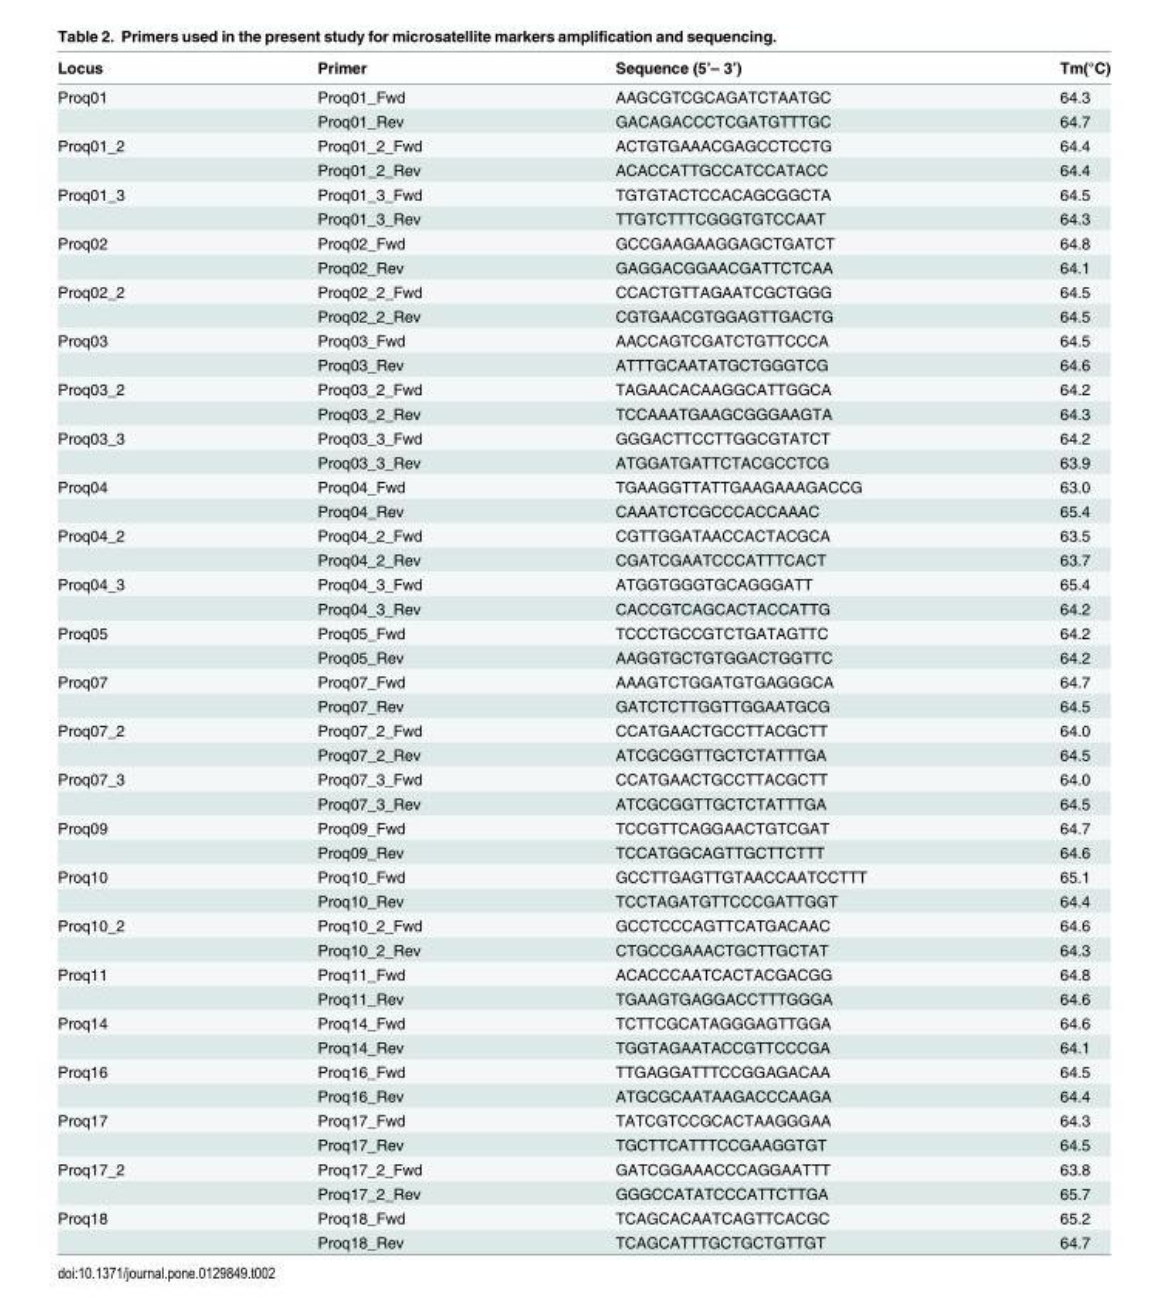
<table><thead><tr><td>Locus</td><td>Primer</td><td>Sequence (5’– 3’)</td><td>Tm(°C)</td></tr></thead><tbody><tr><td rowspan="2">Proq01</td><td>Proq01_Fwd</td><td>AAGCGTCGCAGATCTAATGC</td><td>64.3</td></tr><tr><td>Proq01_Rev</td><td>GACAGACCCTCGATGTTTGC</td><td>64.7</td></tr><tr><td rowspan="2">Proq01_2</td><td>Proq01_2_Fwd</td><td>ACTGTGAAACGAGCCTCCTG</td><td>64.4</td></tr><tr><td>Proq01_2_Rev</td><td>ACACCATTGCCATCCATACC</td><td>64.4</td></tr><tr><td rowspan="2">Proq01_3</td><td>Proq01_3_Fwd</td><td>TGTGTACTCCACAGCGGCTA</td><td>64.5</td></tr><tr><td>Proq01_3_Rev</td><td>TTGTCTTTCGGGTGTCCAAT</td><td>64.3</td></tr><tr><td rowspan="2">Proq02</td><td>Proq02_Fwd</td><td>GCCGAAGAAGGAGCTGATCT</td><td>64.8</td></tr><tr><td>Proq02_Rev</td><td>GAGGACGGAACGATTCTCAA</td><td>64.1</td></tr><tr><td rowspan="2">Proq02_2</td><td>Proq02_2_Fwd</td><td>CCACTGTTAGAATCGCTGGG</td><td>64.5</td></tr><tr><td>Proq02_2_Rev</td><td>CGTGAACGTGGAGTTGACTG</td><td>64.5</td></tr><tr><td rowspan="2">Proq03</td><td>Proq03_Fwd</td><td>AACCAGTCGATCTGTTCCCA</td><td>64.5</td></tr><tr><td>Proq03_Rev</td><td>ATTTGCAATATGCTGGGTCG</td><td>64.6</td></tr><tr><td rowspan="2">Proq03_2</td><td>Proq03_2_Fwd</td><td>TAGAACACAAGGCATTGGCA</td><td>64.2</td></tr><tr><td>Proq03_2_Rev</td><td>TCCAAATGAAGCGGGAAGTA</td><td>64.3</td></tr><tr><td rowspan="2">Proq03_3</td><td>Proq03_3_Fwd</td><td>GGGACTTCCTTGGCGTATCT</td><td>64.2</td></tr><tr><td>Proq03_3_Rev</td><td>ATGGATGATTCTACGCCTCG</td><td>63.9</td></tr><tr><td rowspan="2">Proq04</td><td>Proq04_Fwd</td><td>TGAAGGTTATTGAAGAAAGACCG</td><td>63.0</td></tr><tr><td>Proq04_Rev</td><td>CAAATCTCGCCCACCAAAC</td><td>65.4</td></tr><tr><td rowspan="2">Proq04_2</td><td>Proq04_2_Fwd</td><td>CGTTGGATAACCACTACGCA</td><td>63.5</td></tr><tr><td>Proq04_2_Rev</td><td>CGATCGAATCCCATTTCACT</td><td>63.7</td></tr><tr><td rowspan="2">Proq04_3</td><td>Proq04_3_Fwd</td><td>ATGGTGGGTGCAGGGATT</td><td>65.4</td></tr><tr><td>Proq04_3_Rev</td><td>CACCGTCAGCACTACCATTG</td><td>64.2</td></tr><tr><td rowspan="2">Proq05</td><td>Proq05_Fwd</td><td>TCCCTGCCGTCTGATAGTTC</td><td>64.2</td></tr><tr><td>Proq05_Rev</td><td>AAGGTGCTGTGGACTGGTTC</td><td>64.2</td></tr><tr><td rowspan="2">Proq07</td><td>Proq07_Fwd</td><td>AAAGTCTGGATGTGAGGGCA</td><td>64.7</td></tr><tr><td>Proq07_Rev</td><td>GATCTCTTGGTTGGAATGCG</td><td>64.5</td></tr><tr><td rowspan="2">Proq07_2</td><td>Proq07_2_Fwd</td><td>CCATGAACTGCCTTACGCTT</td><td>64.0</td></tr><tr><td>Proq07_2_Rev</td><td>ATCGCGGTTGCTCTATTTGA</td><td>64.5</td></tr><tr><td rowspan="2">Proq07_3</td><td>Proq07_3_Fwd</td><td>CCATGAACTGCCTTACGCTT</td><td>64.0</td></tr><tr><td>Proq07_3_Rev</td><td>ATCGCGGTTGCTCTATTTGA</td><td>64.5</td></tr><tr><td rowspan="2">Proq09</td><td>Proq09_Fwd</td><td>TCCGTTCAGGAACTGTCGAT</td><td>64.7</td></tr><tr><td>Proq09_Rev</td><td>TCCATGGCAGTTGCTTCTTT</td><td>64.6</td></tr><tr><td rowspan="2">Proq10</td><td>Proq10_Fwd</td><td>GCCTTGAGTTGTAACCAATCCTTT</td><td>65.1</td></tr><tr><td>Proq10_Rev</td><td>TCCTAGATGTTCCCGATTGGT</td><td>64.4</td></tr><tr><td rowspan="2">Proq10_2</td><td>Proq10_2_Fwd</td><td>GCCTCCCAGTTCATGACAAC</td><td>64.6</td></tr><tr><td>Proq10_2_Rev</td><td>CTGCCGAAACTGCTTGCTAT</td><td>64.3</td></tr><tr><td rowspan="2">Proq11</td><td>Proq11_Fwd</td><td>ACACCCAATCACTACGACGG</td><td>64.8</td></tr><tr><td>Proq11_Rev</td><td>TGAAGTGAGGACCTTTGGGA</td><td>64.6</td></tr><tr><td rowspan="2">Proq14</td><td>Proq14_Fwd</td><td>TCTTCGCATAGGGAGTTGGA</td><td>64.6</td></tr><tr><td>Proq14_Rev</td><td>TGGTAGAATACCGTTCCCGA</td><td>64.1</td></tr><tr><td rowspan="2">Proq16</td><td>Proq16_Fwd</td><td>TTGAGGATTTCCGGAGACAA</td><td>64.5</td></tr><tr><td>Proq16_Rev</td><td>ATGCGCAATAAGACCCAAGA</td><td>64.4</td></tr><tr><td rowspan="2">Proq17</td><td>Proq17_Fwd</td><td>TATCGTCCGCACTAAGGGAA</td><td>64.3</td></tr><tr><td>Proq17_Rev</td><td>TGCTTCATTTCCGAAGGTGT</td><td>64.5</td></tr><tr><td rowspan="2">Proq17_2</td><td>Proq17_2_Fwd</td><td>GATCGGAAACCCAGGAATTT</td><td>63.8</td></tr><tr><td>Proq17_2_Rev</td><td>GGGCCATATCCCATTCTTGA</td><td>65.7</td></tr><tr><td rowspan="2">Proq18</td><td>Proq18_Fwd</td><td>TCAGCACAATCAGTTCACGC</td><td>65.2</td></tr><tr><td>Proq18_Rev</td><td>TCAGCATTTGCTGCTGTTGT</td><td>64.7</td></tr></tbody></table>